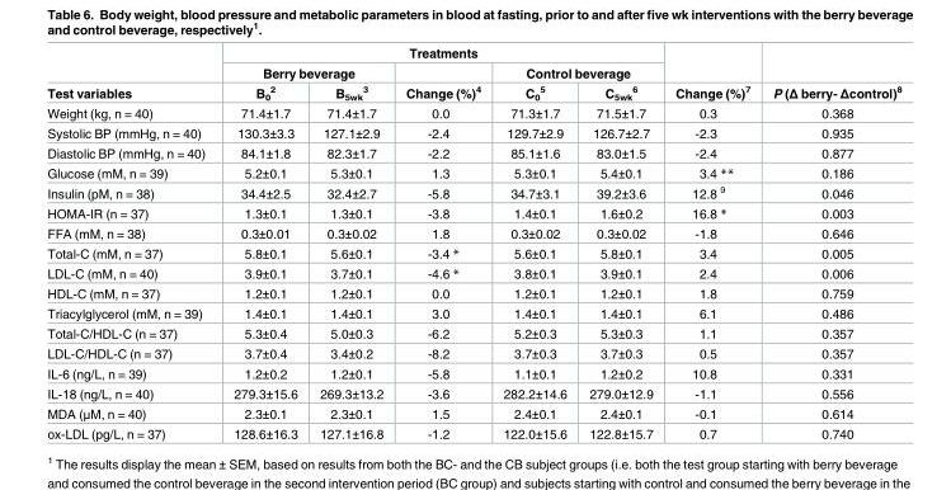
<table><thead><tr><td rowspan="3">Test variables</td><td colspan="5">Treatments</td><td rowspan="3">Change (%)<sup>7</sup></td><td rowspan="3">P (Δ berry- Δcontrol)<sup>8</sup></td></tr><tr><td colspan="2">Berry beverage</td><td rowspan="2">Change (%)<sup>4</sup></td><td colspan="2">Control beverage</td></tr><tr><td>B<sub>0</sub> <sup>2</sup></td><td>B<sub>5wk</sub> <sup>3</sup></td><td>C<sub>0</sub> <sup>5</sup></td><td>C<sub>5wk</sub> <sup>6</sup></td></tr></thead><tbody><tr><td>Weight (kg, n = 40)</td><td>71.4±1.7</td><td>71.4±1.7</td><td>0.0</td><td>71.3±1.7</td><td>71.5±1.7</td><td>0.3</td><td>0.368</td></tr><tr><td>Systolic BP (mmHg, n = 40)</td><td>130.3±3.3</td><td>127.1±2.9</td><td>-2.4</td><td>129.7±2.9</td><td>126.7±2.7</td><td>-2.3</td><td>0.935</td></tr><tr><td>Diastolic BP (mmHg, n = 40)</td><td>84.1±1.8</td><td>82.3±1.7</td><td>-2.2</td><td>85.1±1.6</td><td>83.0±1.5</td><td>-2.4</td><td>0.877</td></tr><tr><td>Glucose (mM, n = 39)</td><td>5.2±0.1</td><td>5.3±0.1</td><td>1.3</td><td>5.3±0.1</td><td>5.4±0.1</td><td>3.4 **</td><td>0.186</td></tr><tr><td>Insulin (pM, n = 38)</td><td>34.4±2.5</td><td>32.4±2.7</td><td>-5.8</td><td>34.7±3.1</td><td>39.2±3.6</td><td>12.8 <sup>9</sup></td><td>0.046</td></tr><tr><td>HOMA-IR (n = 37)</td><td>1.3±0.1</td><td>1.3±0.1</td><td>-3.8</td><td>1.4±0.1</td><td>1.6±0.2</td><td>16.8 *</td><td>0.003</td></tr><tr><td>FFA (mM, n = 38)</td><td>0.3±0.01</td><td>0.3±0.02</td><td>1.8</td><td>0.3±0.02</td><td>0.3±0.02</td><td>-1.8</td><td>0.646</td></tr><tr><td>Total-C (mM, n = 37)</td><td>5.8±0.1</td><td>5.6±0.1</td><td>-3.4 *</td><td>5.6±0.1</td><td>5.8±0.1</td><td>3.4</td><td>0.005</td></tr><tr><td>LDL-C (mM, n = 40)</td><td>3.9±0.1</td><td>3.7±0.1</td><td>-4.6 *</td><td>3.8±0.1</td><td>3.9±0.1</td><td>2.4</td><td>0.006</td></tr><tr><td>HDL-C (mM, n = 37)</td><td>1.2±0.1</td><td>1.2±0.1</td><td>0.0</td><td>1.2±0.1</td><td>1.2±0.1</td><td>1.8</td><td>0.759</td></tr><tr><td>Triacylglycerol (mM, n = 39)</td><td>1.4±0.1</td><td>1.4±0.1</td><td>3.0</td><td>1.4±0.1</td><td>1.4±0.1</td><td>6.1</td><td>0.486</td></tr><tr><td>Total-C/HDL-C (n = 37)</td><td>5.3±0.4</td><td>5.0±0.3</td><td>-6.2</td><td>5.2±0.3</td><td>5.3±0.3</td><td>1.1</td><td>0.357</td></tr><tr><td>LDL-C/HDL-C (n = 37)</td><td>3.7±0.4</td><td>3.4±0.2</td><td>-8.2</td><td>3.7±0.3</td><td>3.7±0.3</td><td>0.5</td><td>0.357</td></tr><tr><td>IL-6 (ng/L, n = 39)</td><td>1.2±0.2</td><td>1.2±0.1</td><td>-5.8</td><td>1.1±0.1</td><td>1.2±0.2</td><td>10.8</td><td>0.331</td></tr><tr><td>IL-18 (ng/L, n = 40)</td><td>279.3±15.6</td><td>269.3±13.2</td><td>-3.6</td><td>282.2±14.6</td><td>279.0±12.9</td><td>-1.1</td><td>0.556</td></tr><tr><td>MDA (μM, n = 40)</td><td>2.3±0.1</td><td>2.3±0.1</td><td>1.5</td><td>2.4±0.1</td><td>2.4±0.1</td><td>-0.1</td><td>0.614</td></tr><tr><td>ox-LDL (pg/L, n = 37)</td><td>128.6±16.3</td><td>127.1±16.8</td><td>-1.2</td><td>122.0±15.6</td><td>122.8±15.7</td><td>0.7</td><td>0.740</td></tr></tbody></table>